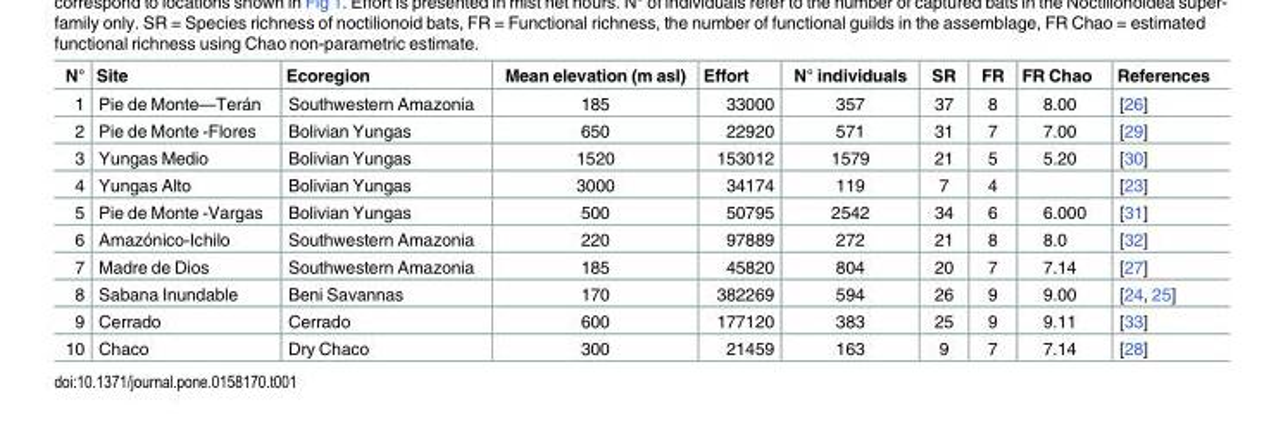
<table><thead><tr><td>N°</td><td>Site</td><td>Ecoregion</td><td>Mean elevation (m asl)</td><td>Effort</td><td>N° individuals</td><td>SR</td><td>FR</td><td>FR Chao</td><td>References</td></tr></thead><tbody><tr><td>1</td><td>Pie de Monte—Terán</td><td>Southwestern Amazonia</td><td>185</td><td>33000</td><td>357</td><td>37</td><td>8</td><td>8.00</td><td>[26]</td></tr><tr><td>2</td><td>Pie de Monte -Flores</td><td>Bolivian Yungas</td><td>650</td><td>22920</td><td>571</td><td>31</td><td>7</td><td>7.00</td><td>[29]</td></tr><tr><td>3</td><td>Yungas Medio</td><td>Bolivian Yungas</td><td>1520</td><td>153012</td><td>1579</td><td>21</td><td>5</td><td>5.20</td><td>[30]</td></tr><tr><td>4</td><td>Yungas Alto</td><td>Bolivian Yungas</td><td>3000</td><td>34174</td><td>119</td><td>7</td><td>4</td><td></td><td>[23]</td></tr><tr><td>5</td><td>Pie de Monte -Vargas</td><td>Bolivian Yungas</td><td>500</td><td>50795</td><td>2542</td><td>34</td><td>6</td><td>6.000</td><td>[31]</td></tr><tr><td>6</td><td>Amazónico-Ichilo</td><td>Southwestern Amazonia</td><td>220</td><td>97889</td><td>272</td><td>21</td><td>8</td><td>8.0</td><td>[32]</td></tr><tr><td>7</td><td>Madre de Dios</td><td>Southwestern Amazonia</td><td>185</td><td>45820</td><td>804</td><td>20</td><td>7</td><td>7.14</td><td>[27]</td></tr><tr><td>8</td><td>Sabana Inundable</td><td>Beni Savannas</td><td>170</td><td>382269</td><td>594</td><td>26</td><td>9</td><td>9.00</td><td>[24, 25]</td></tr><tr><td>9</td><td>Cerrado</td><td>Cerrado</td><td>600</td><td>177120</td><td>383</td><td>25</td><td>9</td><td>9.11</td><td>[33]</td></tr><tr><td>10</td><td>Chaco</td><td>Dry Chaco</td><td>300</td><td>21459</td><td>163</td><td>9</td><td>7</td><td>7.14</td><td>[28]</td></tr></tbody></table>